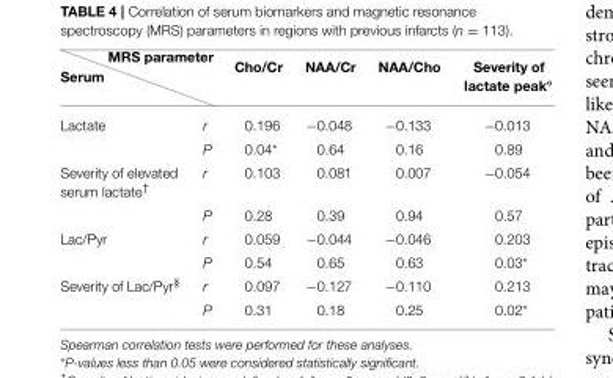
<table><thead><tr><td>Serum</td><td></td><td>Cho/Cr</td><td>NAA/Cr</td><td>NAA/Cho</td><td>Severity of lactate peak◦</td></tr></thead><tbody><tr><td rowspan="2">Lactate</td><td>r</td><td>0.196</td><td>−0.048</td><td>−0.133</td><td>−0.013</td></tr><tr><td>P</td><td>0.04*</td><td>0.64</td><td>0.16</td><td>0.89</td></tr><tr><td rowspan="2">Severity of elevated serum lactate<sup>†</sup></td><td>r</td><td>0.103</td><td>0.081</td><td>0.007</td><td>−0.054</td></tr><tr><td>P</td><td>0.28</td><td>0.39</td><td>0.94</td><td>0.57</td></tr><tr><td rowspan="2">Lac/Pyr</td><td>r</td><td>0.059</td><td>−0.044</td><td>−0.046</td><td>0.203</td></tr><tr><td>P</td><td>0.54</td><td>0.65</td><td>0.63</td><td>0.03*</td></tr><tr><td rowspan="2">Severity of Lac/Pyr<sup>§</sup></td><td>r</td><td>0.097</td><td>−0.127</td><td>−0.110</td><td>0.213</td></tr><tr><td>P</td><td>0.31</td><td>0.18</td><td>0.25</td><td>0.02*</td></tr></tbody></table>